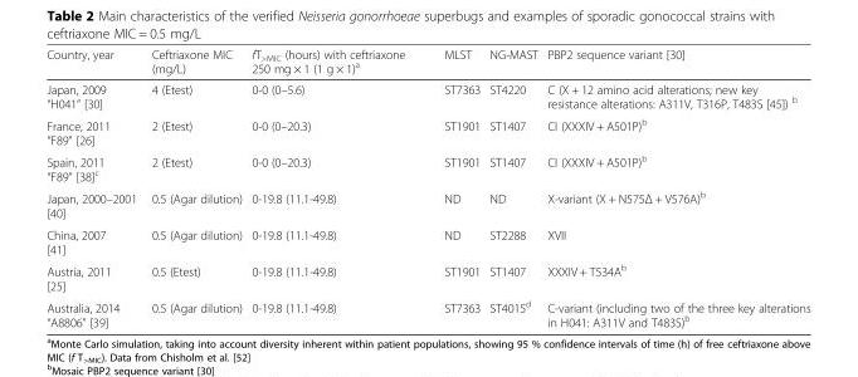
<table><thead><tr><td>Country, year</td><td>Ceftriaxone MIC (mg/L)</td><td>fT<sub>&gt;MIC</sub> (hours) with ceftriaxone 250 mg × 1 (1 g × 1)<sup>a</sup></td><td>MLST</td><td>NG-MAST</td><td>PBP2 sequence variant [30]</td></tr></thead><tbody><tr><td>Japan, 2009 “H041” [30]</td><td>4 (Etest)</td><td>0-0 (0–5.6)</td><td>ST7363</td><td>ST4220</td><td>C (X + 12 amino acid alterations; new key resistance alterations: A311V, T316P, T483S [45]) <sup>b</sup></td></tr><tr><td>France, 2011 “F89” [26]</td><td>2 (Etest)</td><td>0-0 (0–20.3)</td><td>ST1901</td><td>ST1407</td><td>CI (XXXIV + A501P)<sup>b</sup></td></tr><tr><td>Spain, 2011 “F89” [38]<sup>c</sup></td><td>2 (Etest)</td><td>0-0 (0–20.3)</td><td>ST1901</td><td>ST1407</td><td>CI (XXXIV + A501P)<sup>b</sup></td></tr><tr><td>Japan, 2000–2001 [40]</td><td>0.5 (Agar dilution)</td><td>0-19.8 (11.1-49.8)</td><td>ND</td><td>ND</td><td>X-variant (X + N575Δ + V576A)<sup>b</sup></td></tr><tr><td>China, 2007 [41]</td><td>0.5 (Agar dilution)</td><td>0-19.8 (11.1-49.8)</td><td>ND</td><td>ST2288</td><td>XVII</td></tr><tr><td>Austria, 2011 [25]</td><td>0.5 (Etest)</td><td>0-19.8 (11.1-49.8)</td><td>ST1901</td><td>ST1407</td><td>XXXIV + T534A<sup>b</sup></td></tr><tr><td>Australia, 2014 “A8806” [39]</td><td>0.5 (Agar dilution)</td><td>0-19.8 (11.1-49.8)</td><td>ST7363</td><td>ST4015<sup>d</sup></td><td>C-variant (including two of the three key alterations in H041: A311V and T483S)<sup>b</sup></td></tr></tbody></table>